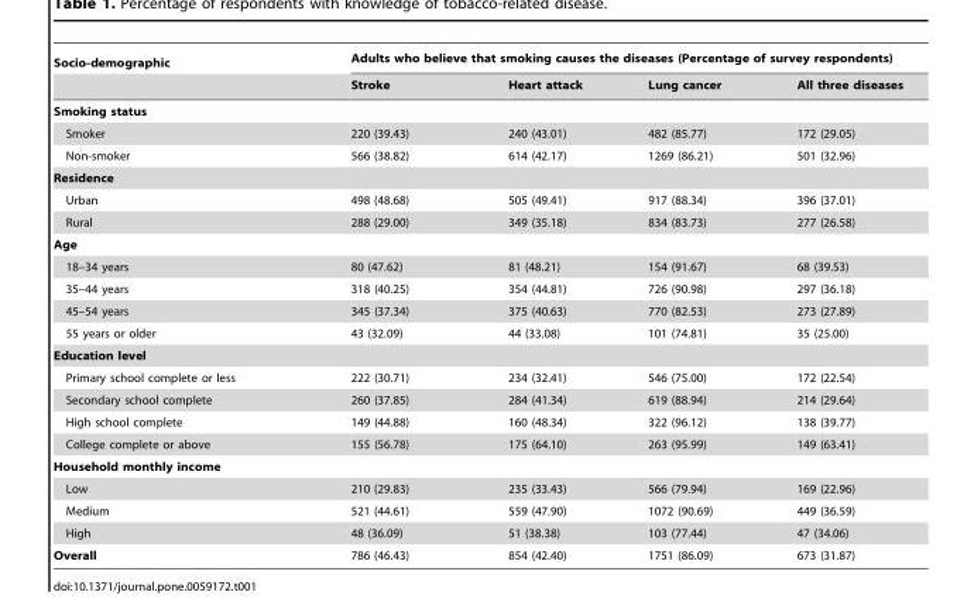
<table><thead><tr><td rowspan="2">Socio-demographic</td><td colspan="4">Adults who believe that smoking causes the diseases (Percentage of survey respondents)</td></tr><tr><td>Stroke</td><td>Heart attack</td><td>Lung cancer</td><td>All three diseases</td></tr></thead><tbody><tr><td colspan="5">Smoking status</td></tr><tr><td>Smoker</td><td>220 (39.43)</td><td>240 (43.01)</td><td>482 (85.77)</td><td>172 (29.05)</td></tr><tr><td>Non-smoker</td><td>566 (38.82)</td><td>614 (42.17)</td><td>1269 (86.21)</td><td>501 (32.96)</td></tr><tr><td colspan="5">Residence</td></tr><tr><td>Urban</td><td>498 (48.68)</td><td>505 (49.41)</td><td>917 (88.34)</td><td>396 (37.01)</td></tr><tr><td>Rural</td><td>288 (29.00)</td><td>349 (35.18)</td><td>834 (83.73)</td><td>277 (26.58)</td></tr><tr><td colspan="5">Age</td></tr><tr><td>18–34 years</td><td>80 (47.62)</td><td>81 (48.21)</td><td>154 (91.67)</td><td>68 (39.53)</td></tr><tr><td>35–44 years</td><td>318 (40.25)</td><td>354 (44.81)</td><td>726 (90.98)</td><td>297 (36.18)</td></tr><tr><td>45–54 years</td><td>345 (37.34)</td><td>375 (40.63)</td><td>770 (82.53)</td><td>273 (27.89)</td></tr><tr><td>55 years or older</td><td>43 (32.09)</td><td>44 (33.08)</td><td>101 (74.81)</td><td>35 (25.00)</td></tr><tr><td colspan="5">Education level</td></tr><tr><td>Primary school complete or less</td><td>222 (30.71)</td><td>234 (32.41)</td><td>546 (75.00)</td><td>172 (22.54)</td></tr><tr><td>Secondary school complete</td><td>260 (37.85)</td><td>284 (41.34)</td><td>619 (88.94)</td><td>214 (29.64)</td></tr><tr><td>High school complete</td><td>149 (44.88)</td><td>160 (48.34)</td><td>322 (96.12)</td><td>138 (39.77)</td></tr><tr><td>College complete or above</td><td>155 (56.78)</td><td>175 (64.10)</td><td>263 (95.99)</td><td>149 (63.41)</td></tr><tr><td colspan="5">Household monthly income</td></tr><tr><td>Low</td><td>210 (29.83)</td><td>235 (33.43)</td><td>566 (79.94)</td><td>169 (22.96)</td></tr><tr><td>Medium</td><td>521 (44.61)</td><td>559 (47.90)</td><td>1072 (90.69)</td><td>449 (36.59)</td></tr><tr><td>High</td><td>48 (36.09)</td><td>51 (38.38)</td><td>103 (77.44)</td><td>47 (34.06)</td></tr><tr><td>Overall</td><td>786 (46.43)</td><td>854 (42.40)</td><td>1751 (86.09)</td><td>673 (31.87)</td></tr></tbody></table>